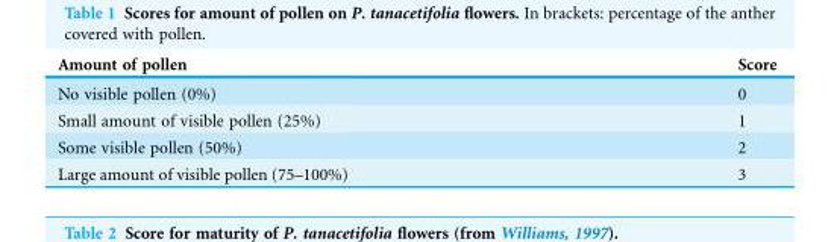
<table><thead><tr><td>Amount of pollen</td><td>Score</td></tr></thead><tbody><tr><td>No visible pollen (0%)</td><td>0</td></tr><tr><td>Small amount of visible pollen (25%)</td><td>1</td></tr><tr><td>Some visible pollen (50%)</td><td>2</td></tr><tr><td>Large amount of visible pollen (75–100%)</td><td>3</td></tr></tbody></table>